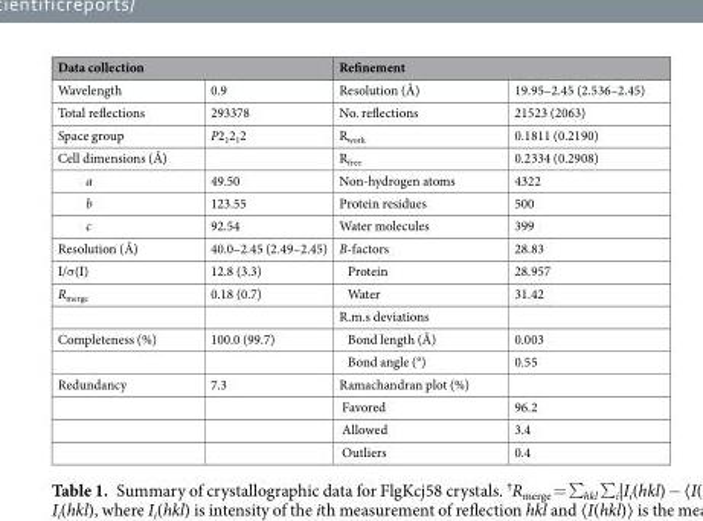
<table><thead><tr><td colspan="2">Data collection</td><td colspan="2">Refinement</td></tr><tr><td>Wavelength</td><td>0.9</td><td>Resolution (Å)</td><td>19.95–2.45 (2.536–2.45)</td></tr></thead><tbody><tr><td>Total reflections</td><td>293378</td><td>No. reflections</td><td>21523 (2063)</td></tr><tr><td>Space group</td><td>P2<sub>1</sub>2<sub>1</sub>2</td><td>R<sub>work</sub></td><td>0.1811 (0.2190)</td></tr><tr><td>Cell dimensions (Å)</td><td></td><td>R<sub>free</sub></td><td>0.2334 (0.2908)</td></tr><tr><td>a</td><td>49.50</td><td>Non-hydrogen atoms</td><td>4322</td></tr><tr><td>b</td><td>123.55</td><td>Protein residues</td><td>500</td></tr><tr><td>c</td><td>92.54</td><td>Water molecules</td><td>399</td></tr><tr><td>Resolution (Å)</td><td>40.0–2.45 (2.49–2.45)</td><td>B-factors</td><td>28.83</td></tr><tr><td>I/σ(I)</td><td>12.8 (3.3)</td><td>Protein</td><td>28.957</td></tr><tr><td rowspan="2">R<sub>merge</sub></td><td>0.18 (0.7)</td><td>Water</td><td>31.42</td></tr><tr><td></td><td>R.m.s deviations</td><td></td></tr><tr><td rowspan="2">Completeness (%)</td><td>100.0 (99.7)</td><td>Bond length (Å)</td><td>0.003</td></tr><tr><td></td><td>Bond angle (°)</td><td>0.55</td></tr><tr><td rowspan="4">Redundancy</td><td>7.3</td><td>Ramachandran plot (%)</td><td></td></tr><tr><td></td><td>Favored</td><td>96.2</td></tr><tr><td></td><td>Allowed</td><td>3.4</td></tr><tr><td></td><td>Outliers</td><td>0.4</td></tr></tbody></table>